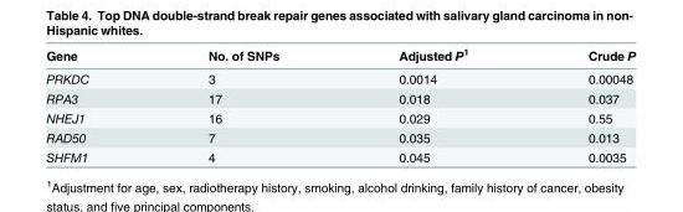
<table><thead><tr><td>Gene</td><td>No. of SNPs</td><td>Adjusted P1</td><td>Crude P</td></tr></thead><tbody><tr><td>PRKDC</td><td>3</td><td>0.0014</td><td>0.00048</td></tr><tr><td>RPA3</td><td>17</td><td>0.018</td><td>0.037</td></tr><tr><td>NHEJ1</td><td>16</td><td>0.029</td><td>0.55</td></tr><tr><td>RAD50</td><td>7</td><td>0.035</td><td>0.013</td></tr><tr><td>SHFM1</td><td>4</td><td>0.045</td><td>0.0035</td></tr></tbody></table>